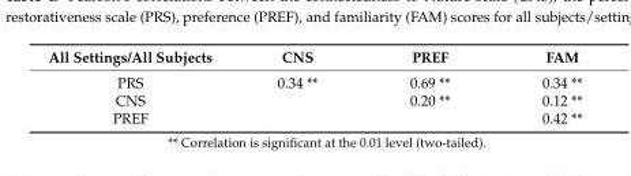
<table><thead><tr><td>All Settings/All Subjects</td><td>CNS</td><td>PREF</td><td>FAM</td></tr></thead><tbody><tr><td>PRS</td><td>0.34 **</td><td>0.69 **</td><td>0.34 **</td></tr><tr><td>CNS</td><td></td><td>0.20 **</td><td>0.12 **</td></tr><tr><td>PREF</td><td></td><td></td><td>0.42 **</td></tr></tbody></table>